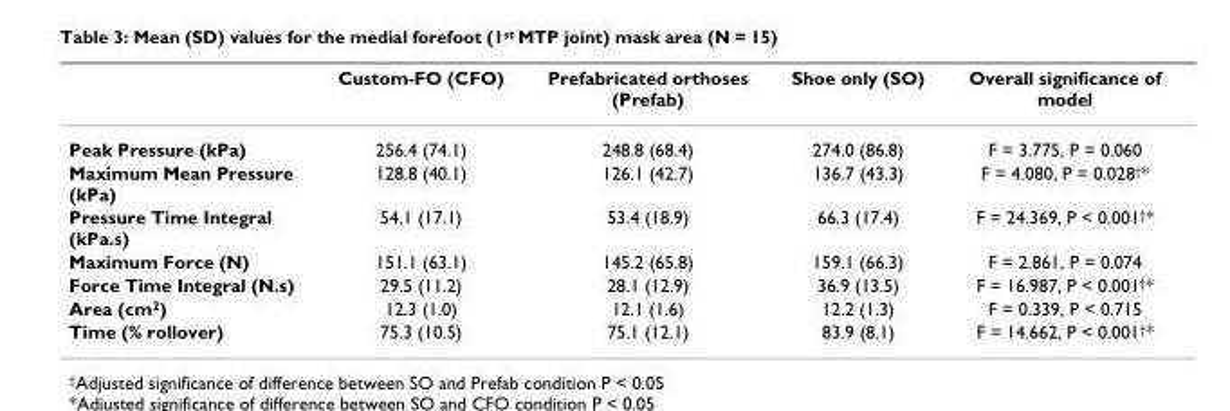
<table><thead><tr><td></td><td>Custom-FO (CFO)</td><td>Prefabricated orthoses (Prefab)</td><td>Shoe only (SO)</td><td>Overall significance of model</td></tr></thead><tbody><tr><td>Peak Pressure (kPa)</td><td>256.4 (74.1)</td><td>248.8 (68.4)</td><td>274.0 (86.8)</td><td>F = 3.775, P = 0.060</td></tr><tr><td>Maximum Mean Pressure (kPa)</td><td>128.8 (40.1)</td><td>126.1 (42.7)</td><td>136.7 (43.3)</td><td>F = 4.080, P = 0.028<sup>†</sup>*</td></tr><tr><td>Pressure Time Integral (kPa.s)</td><td>54.1 (17.1)</td><td>53.4 (18.9)</td><td>66.3 (17.4)</td><td>F = 24.369, P &lt; 0.001<sup>†</sup>*</td></tr><tr><td>Maximum Force (N)</td><td>151.1 (63.1)</td><td>145.2 (65.8)</td><td>159.1 (66.3)</td><td>F = 2.861, P = 0.074</td></tr><tr><td>Force Time Integral (N.s)</td><td>29.5 (11.2)</td><td>28.1 (12.9)</td><td>36.9 (13.5)</td><td>F = 16.987, P &lt; 0.001<sup>†</sup>*</td></tr><tr><td>Area (cm<sup>2</sup>)</td><td>12.3 (1.0)</td><td>12.1 (1.6)</td><td>12.2 (1.3)</td><td>F = 0.339, P &lt; 0.715</td></tr><tr><td>Time (% rollover)</td><td>75.3 (10.5)</td><td>75.1 (12.1)</td><td>83.9 (8.1)</td><td>F = 14.662, P &lt; 0.001<sup>†</sup>*</td></tr></tbody></table>